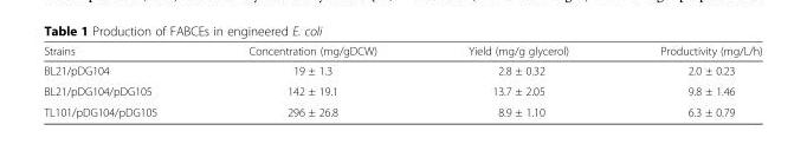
<table><thead><tr><td>Strains</td><td>Concentration (mg/gDCW)</td><td>Yield (mg/g glycerol)</td><td>Productivity (mg/L/h)</td></tr></thead><tbody><tr><td>BL21/pDG104</td><td>19 ± 1.3</td><td>2.8 ± 0.32</td><td>2.0 ± 0.23</td></tr><tr><td>BL21/pDG104/pDG105</td><td>142 ± 19.1</td><td>13.7 ± 2.05</td><td>9.8 ± 1.46</td></tr><tr><td>TL101/pDG104/pDG105</td><td>296 ± 26.8</td><td>8.9 ± 1.10</td><td>6.3 ± 0.79</td></tr></tbody></table>